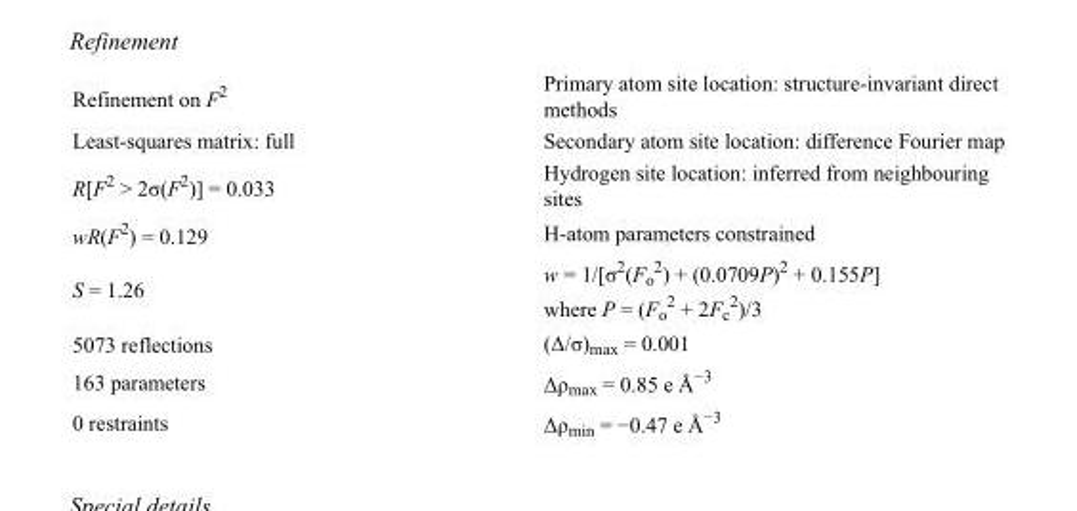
<table><tbody><tr><td>Refinement on F<sup>2</sup></td><td>Primary atom site location: structure-invariant direct methods</td></tr><tr><td>Least-squares matrix: full</td><td>Secondary atom site location: difference Fourier map</td></tr><tr><td>R[F<sup>2</sup> &gt; 2σ(F<sup>2</sup>)] = 0.033</td><td>Hydrogen site location: inferred from neighbouring sites</td></tr><tr><td>wR(F<sup>2</sup>) = 0.129</td><td>H-atom parameters constrained</td></tr><tr><td>S = 1.26</td><td>w = 1/[σ<sup>2</sup>(F<sub>o</sub> <sup>2</sup>) + (0.0709P)<sup>2</sup> + 0.155P] where P = (F<sub>o</sub> <sup>2</sup> + 2F<sub>c</sub> <sup>2</sup>)/3</td></tr><tr><td>5073 reflections</td><td>(Δ/σ)<sub>max</sub> = 0.001</td></tr><tr><td>163 parameters</td><td>Δρ<sub>max</sub> = 0.85 e Å<sup>−3</sup></td></tr><tr><td>0 restraints</td><td>Δρ<sub>min</sub> = −0.47 e Å<sup>−3</sup></td></tr></tbody></table>